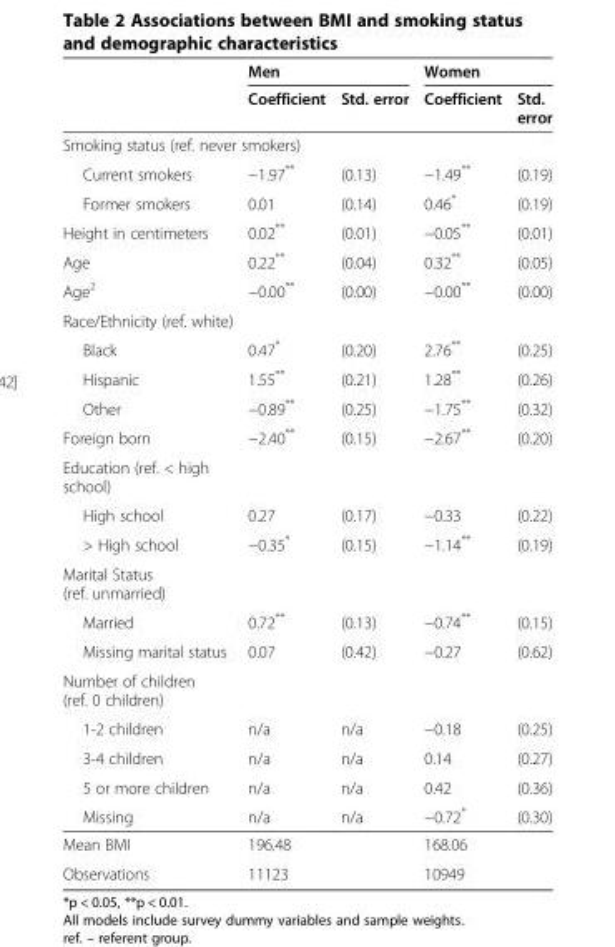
<table><thead><tr><td rowspan="2"></td><td colspan="2">Men</td><td colspan="2">Women</td></tr><tr><td>Coefficient</td><td>Std. error</td><td>Coefficient</td><td>Std. error</td></tr></thead><tbody><tr><td colspan="5">Smoking status (ref. never smokers)</td></tr><tr><td>Current smokers</td><td>−1.97**</td><td>(0.13)</td><td>−1.49**</td><td>(0.19)</td></tr><tr><td>Former smokers</td><td>0.01</td><td>(0.14)</td><td>0.46*</td><td>(0.19)</td></tr><tr><td>Height in centimeters</td><td>0.02**</td><td>(0.01)</td><td>−0.05**</td><td>(0.01)</td></tr><tr><td>Age</td><td>0.22**</td><td>(0.04)</td><td>0.32**</td><td>(0.05)</td></tr><tr><td>Age<sup>2</sup></td><td>−0.00**</td><td>(0.00)</td><td>−0.00**</td><td>(0.00)</td></tr><tr><td colspan="5">Race/Ethnicity (ref. white)</td></tr><tr><td>Black</td><td>0.47*</td><td>(0.20)</td><td>2.76**</td><td>(0.25)</td></tr><tr><td>Hispanic</td><td>1.55**</td><td>(0.21)</td><td>1.28**</td><td>(0.26)</td></tr><tr><td>Other</td><td>−0.89**</td><td>(0.25)</td><td>−1.75**</td><td>(0.32)</td></tr><tr><td>Foreign born</td><td>−2.40**</td><td>(0.15)</td><td>−2.67**</td><td>(0.20)</td></tr><tr><td colspan="5">Education (ref. &lt; high school)</td></tr><tr><td>High school</td><td>0.27</td><td>(0.17)</td><td>−0.33</td><td>(0.22)</td></tr><tr><td>&gt; High school</td><td>−0.35*</td><td>(0.15)</td><td>−1.14**</td><td>(0.19)</td></tr><tr><td colspan="5">Marital Status (ref. unmarried)</td></tr><tr><td>Married</td><td>0.72**</td><td>(0.13)</td><td>−0.74**</td><td>(0.15)</td></tr><tr><td>Missing marital status</td><td>0.07</td><td>(0.42)</td><td>−0.27</td><td>(0.62)</td></tr><tr><td colspan="5">Number of children (ref. 0 children)</td></tr><tr><td>1-2 children</td><td>n/a</td><td>n/a</td><td>−0.18</td><td>(0.25)</td></tr><tr><td>3-4 children</td><td>n/a</td><td>n/a</td><td>0.14</td><td>(0.27)</td></tr><tr><td>5 or more children</td><td>n/a</td><td>n/a</td><td>0.42</td><td>(0.36)</td></tr><tr><td>Missing</td><td>n/a</td><td>n/a</td><td>−0.72*</td><td>(0.30)</td></tr><tr><td>Mean BMI</td><td>196.48</td><td></td><td>168.06</td><td></td></tr><tr><td>Observations</td><td>11123</td><td></td><td>10949</td><td></td></tr></tbody></table>